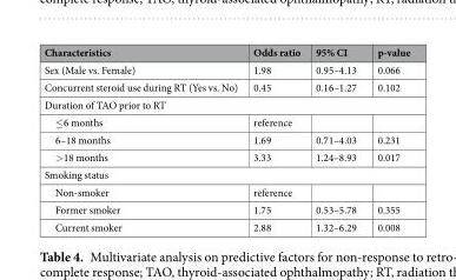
<table><thead><tr><td>Characteristics</td><td>Odds ratio</td><td>95% CI</td><td>p-value</td></tr></thead><tbody><tr><td>Sex (Male vs. Female)</td><td>1.98</td><td>0.95–4.13</td><td>0.066</td></tr><tr><td>Concurrent steroid use during RT (Yes vs. No)</td><td>0.45</td><td>0.16–1.27</td><td>0.102</td></tr><tr><td colspan="4">Duration of TAO prior to RT</td></tr><tr><td>≤6 months</td><td>reference</td><td></td><td></td></tr><tr><td>6–18 months</td><td>1.69</td><td>0.71–4.03</td><td>0.231</td></tr><tr><td>&gt;18 months</td><td>3.33</td><td>1.24–8.93</td><td>0.017</td></tr><tr><td colspan="4">Smoking status</td></tr><tr><td>Non-smoker</td><td>reference</td><td></td><td></td></tr><tr><td>Former smoker</td><td>1.75</td><td>0.53–5.78</td><td>0.355</td></tr><tr><td>Current smoker</td><td>2.88</td><td>1.32–6.29</td><td>0.008</td></tr></tbody></table>